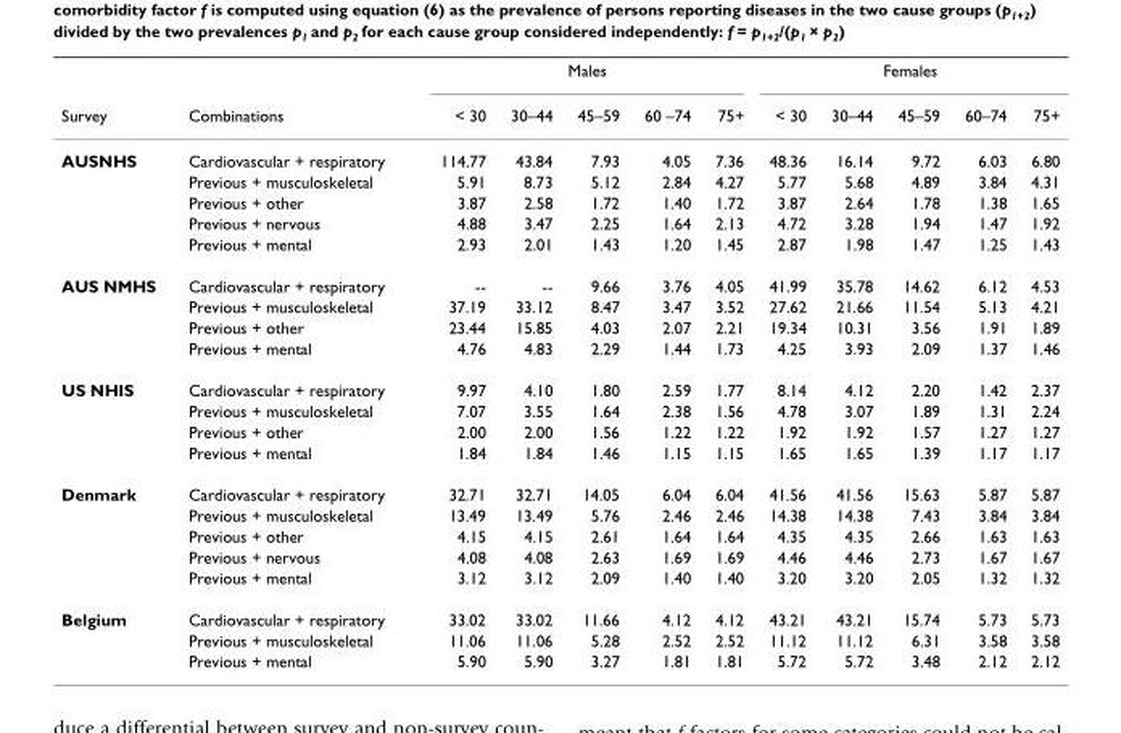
<table><thead><tr><td rowspan="2">Survey</td><td rowspan="2">Combinations</td><td colspan="5">Males</td><td colspan="5">Females</td></tr><tr><td>&lt; 30</td><td>30–44</td><td>45–59</td><td>60 –74</td><td>75+</td><td>&lt; 30</td><td>30–44</td><td>45–59</td><td>60–74</td><td>75+</td></tr></thead><tbody><tr><td rowspan="5">AUSNHS</td><td>Cardiovascular + respiratory</td><td>114.77</td><td>43.84</td><td>7.93</td><td>4.05</td><td>7.36</td><td>48.36</td><td>16.14</td><td>9.72</td><td>6.03</td><td>6.80</td></tr><tr><td>Previous + musculoskeletal</td><td>5.91</td><td>8.73</td><td>5.12</td><td>2.84</td><td>4.27</td><td>5.77</td><td>5.68</td><td>4.89</td><td>3.84</td><td>4.31</td></tr><tr><td>Previous + other</td><td>3.87</td><td>2.58</td><td>1.72</td><td>1.40</td><td>1.72</td><td>3.87</td><td>2.64</td><td>1.78</td><td>1.38</td><td>1.65</td></tr><tr><td>Previous + nervous</td><td>4.88</td><td>3.47</td><td>2.25</td><td>1.64</td><td>2.13</td><td>4.72</td><td>3.28</td><td>1.94</td><td>1.47</td><td>1.92</td></tr><tr><td>Previous + mental</td><td>2.93</td><td>2.01</td><td>1.43</td><td>1.20</td><td>1.45</td><td>2.87</td><td>1.98</td><td>1.47</td><td>1.25</td><td>1.43</td></tr><tr><td rowspan="4">AUS NMHS</td><td>Cardiovascular + respiratory</td><td>--</td><td>--</td><td>9.66</td><td>3.76</td><td>4.05</td><td>41.99</td><td>35.78</td><td>14.62</td><td>6.12</td><td>4.53</td></tr><tr><td>Previous + musculoskeletal</td><td>37.19</td><td>33.12</td><td>8.47</td><td>3.47</td><td>3.52</td><td>27.62</td><td>21.66</td><td>11.54</td><td>5.13</td><td>4.21</td></tr><tr><td>Previous + other</td><td>23.44</td><td>15.85</td><td>4.03</td><td>2.07</td><td>2.21</td><td>19.34</td><td>10.31</td><td>3.56</td><td>1.91</td><td>1.89</td></tr><tr><td>Previous + mental</td><td>4.76</td><td>4.83</td><td>2.29</td><td>1.44</td><td>1.73</td><td>4.25</td><td>3.93</td><td>2.09</td><td>1.37</td><td>1.46</td></tr><tr><td rowspan="4">US NHIS</td><td>Cardiovascular + respiratory</td><td>9.97</td><td>4.10</td><td>1.80</td><td>2.59</td><td>1.77</td><td>8.14</td><td>4.12</td><td>2.20</td><td>1.42</td><td>2.37</td></tr><tr><td>Previous + musculoskeletal</td><td>7.07</td><td>3.55</td><td>1.64</td><td>2.38</td><td>1.56</td><td>4.78</td><td>3.07</td><td>1.89</td><td>1.31</td><td>2.24</td></tr><tr><td>Previous + other</td><td>2.00</td><td>2.00</td><td>1.56</td><td>1.22</td><td>1.22</td><td>1.92</td><td>1.92</td><td>1.57</td><td>1.27</td><td>1.27</td></tr><tr><td>Previous + mental</td><td>1.84</td><td>1.84</td><td>1.46</td><td>1.15</td><td>1.15</td><td>1.65</td><td>1.65</td><td>1.39</td><td>1.17</td><td>1.17</td></tr><tr><td rowspan="5">Denmark</td><td>Cardiovascular + respiratory</td><td>32.71</td><td>32.71</td><td>14.05</td><td>6.04</td><td>6.04</td><td>41.56</td><td>41.56</td><td>15.63</td><td>5.87</td><td>5.87</td></tr><tr><td>Previous + musculoskeletal</td><td>13.49</td><td>13.49</td><td>5.76</td><td>2.46</td><td>2.46</td><td>14.38</td><td>14.38</td><td>7.43</td><td>3.84</td><td>3.84</td></tr><tr><td>Previous + other</td><td>4.15</td><td>4.15</td><td>2.61</td><td>1.64</td><td>1.64</td><td>4.35</td><td>4.35</td><td>2.66</td><td>1.63</td><td>1.63</td></tr><tr><td>Previous + nervous</td><td>4.08</td><td>4.08</td><td>2.63</td><td>1.69</td><td>1.69</td><td>4.46</td><td>4.46</td><td>2.73</td><td>1.67</td><td>1.67</td></tr><tr><td>Previous + mental</td><td>3.12</td><td>3.12</td><td>2.09</td><td>1.40</td><td>1.40</td><td>3.20</td><td>3.20</td><td>2.05</td><td>1.32</td><td>1.32</td></tr><tr><td rowspan="3">Belgium</td><td>Cardiovascular + respiratory</td><td>33.02</td><td>33.02</td><td>11.66</td><td>4.12</td><td>4.12</td><td>43.21</td><td>43.21</td><td>15.74</td><td>5.73</td><td>5.73</td></tr><tr><td>Previous + musculoskeletal</td><td>11.06</td><td>11.06</td><td>5.28</td><td>2.52</td><td>2.52</td><td>11.12</td><td>11.12</td><td>6.31</td><td>3.58</td><td>3.58</td></tr><tr><td>Previous + mental</td><td>5.90</td><td>5.90</td><td>3.27</td><td>1.81</td><td>1.81</td><td>5.72</td><td>5.72</td><td>3.48</td><td>2.12</td><td>2.12</td></tr></tbody></table>